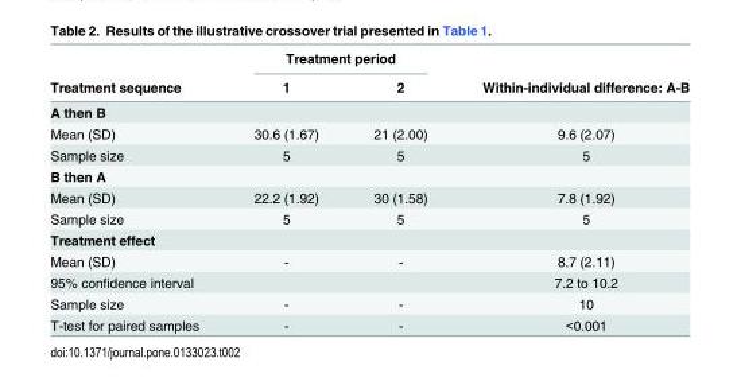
<table><thead><tr><td rowspan="2">Treatment sequence</td><td colspan="2">Treatment period</td><td rowspan="2">Within-individual difference: A-B</td></tr><tr><td>1</td><td>2</td></tr></thead><tbody><tr><td colspan="4">A then B</td></tr><tr><td>Mean (SD)</td><td>30.6 (1.67)</td><td>21 (2.00)</td><td>9.6 (2.07)</td></tr><tr><td>Sample size</td><td>5</td><td>5</td><td>5</td></tr><tr><td colspan="4">B then A</td></tr><tr><td>Mean (SD)</td><td>22.2 (1.92)</td><td>30 (1.58)</td><td>7.8 (1.92)</td></tr><tr><td>Sample size</td><td>5</td><td>5</td><td>5</td></tr><tr><td colspan="4">Treatment effect</td></tr><tr><td>Mean (SD)</td><td>-</td><td>-</td><td>8.7 (2.11)</td></tr><tr><td>95% confidence interval</td><td></td><td></td><td>7.2 to 10.2</td></tr><tr><td>Sample size</td><td>-</td><td>-</td><td>10</td></tr><tr><td>T-test for paired samples</td><td>-</td><td>-</td><td>&lt;0.001</td></tr></tbody></table>